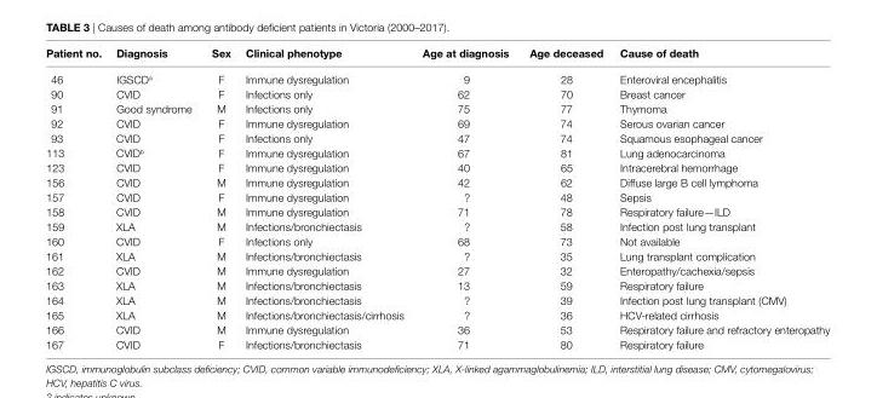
<table><thead><tr><td>Patient no.</td><td>Diagnosis</td><td>sex</td><td>clinical phenotype</td><td>age at diagnosis</td><td>age deceased</td><td>cause of death</td></tr></thead><tbody><tr><td>46</td><td>IGSCD<sup>a</sup></td><td>F</td><td>Immune dysregulation</td><td>9</td><td>28</td><td>Enteroviral encephalitis</td></tr><tr><td>90</td><td>CVID</td><td>F</td><td>Infections only</td><td>62</td><td>70</td><td>Breast cancer</td></tr><tr><td>91</td><td>Good syndrome</td><td>M</td><td>Infections only</td><td>75</td><td>77</td><td>Thymoma</td></tr><tr><td>92</td><td>CVID</td><td>F</td><td>Immune dysregulation</td><td>69</td><td>74</td><td>Serous ovarian cancer</td></tr><tr><td>93</td><td>CVID</td><td>F</td><td>Infections only</td><td>47</td><td>74</td><td>Squamous esophageal cancer</td></tr><tr><td>113</td><td>CVID<sup>b</sup></td><td>F</td><td>Immune dysregulation</td><td>67</td><td>81</td><td>Lung adenocarcinoma</td></tr><tr><td>123</td><td>CVID</td><td>F</td><td>Immune dysregulation</td><td>40</td><td>65</td><td>Intracerebral hemorrhage</td></tr><tr><td>156</td><td>CVID</td><td>M</td><td>Immune dysregulation</td><td>42</td><td>62</td><td>Diffuse large B cell lymphoma</td></tr><tr><td>157</td><td>CVID</td><td>F</td><td>Immune dysregulation</td><td>?</td><td>48</td><td>Sepsis</td></tr><tr><td>158</td><td>CVID</td><td>M</td><td>Immune dysregulation</td><td>71</td><td>78</td><td>Respiratory failure—ILD</td></tr><tr><td>159</td><td>XLA</td><td>M</td><td>Infections/bronchiectasis</td><td>?</td><td>58</td><td>Infection post lung transplant</td></tr><tr><td>160</td><td>CVID</td><td>F</td><td>Infections only</td><td>68</td><td>73</td><td>Not available</td></tr><tr><td>161</td><td>XLA</td><td>M</td><td>Infections/bronchiectasis</td><td>?</td><td>35</td><td>Lung transplant complication</td></tr><tr><td>162</td><td>CVID</td><td>M</td><td>Immune dysregulation</td><td>27</td><td>32</td><td>Enteropathy/cachexia/sepsis</td></tr><tr><td>163</td><td>XLA</td><td>M</td><td>Infections/bronchiectasis</td><td>13</td><td>59</td><td>Respiratory failure</td></tr><tr><td>164</td><td>XLA</td><td>M</td><td>Infections/bronchiectasis</td><td>?</td><td>39</td><td>Infection post lung transplant (CMV)</td></tr><tr><td>165</td><td>XLA</td><td>M</td><td>Infections/bronchiectasis/cirrhosis</td><td>?</td><td>36</td><td>HCV-related cirrhosis</td></tr><tr><td>166</td><td>CVID</td><td>M</td><td>Immune dysregulation</td><td>36</td><td>53</td><td>Respiratory failure and refractory enteropathy</td></tr><tr><td>167</td><td>CVID</td><td>F</td><td>Infections/bronchiectasis</td><td>71</td><td>80</td><td>Respiratory failure</td></tr></tbody></table>